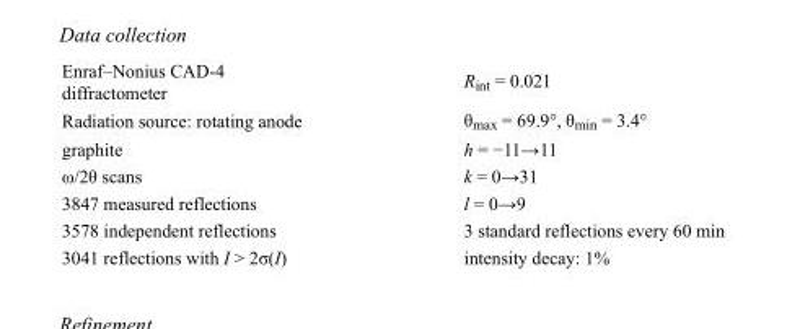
<table><tbody><tr><td>Enraf–Nonius CAD-4 diffractometer</td><td>R<sub>int</sub> = 0.021</td></tr><tr><td>Radiation source: rotating anode</td><td>θ<sub>max</sub> = 69.9°, θ<sub>min</sub> = 3.4°</td></tr><tr><td>graphite</td><td>h = −11→11</td></tr><tr><td>ω/2θ scans</td><td>k = 0→31</td></tr><tr><td>3847 measured reflections</td><td>l = 0→9</td></tr><tr><td>3578 independent reflections</td><td>3 standard reflections every 60 min</td></tr><tr><td>3041 reflections with I &gt; 2σ(I)</td><td>intensity decay: 1%</td></tr></tbody></table>